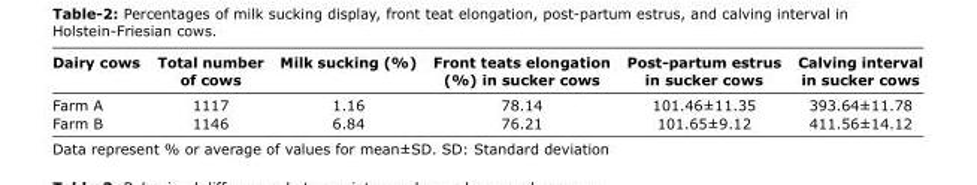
<table><thead><tr><td>Dairy cows</td><td>Total number of cows</td><td>Milk sucking (%)</td><td>Front teats elongation (%) in sucker cows</td><td>Post-partum estrus in sucker cows</td><td>Calving interval in sucker cows</td></tr></thead><tbody><tr><td>Farm A</td><td>1117</td><td>1.16</td><td>78.14</td><td>101.46±11.35</td><td>393.64±11.78</td></tr><tr><td>Farm B</td><td>1146</td><td>6.84</td><td>76.21</td><td>101.65±9.12</td><td>411.56±14.12</td></tr></tbody></table>